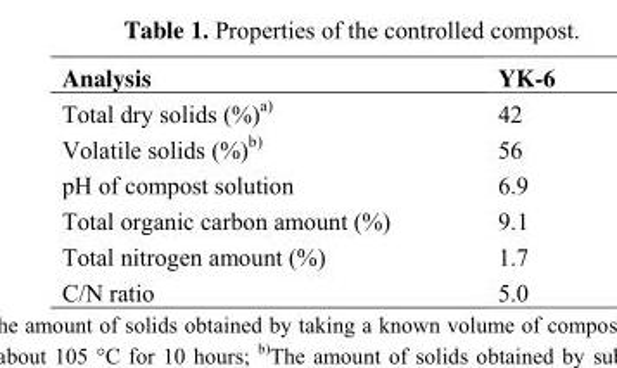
<table><thead><tr><td>Analysis</td><td>YK-6</td></tr></thead><tbody><tr><td>Total dry solids (%)a)</td><td>42</td></tr><tr><td>Volatile solids (%)b)</td><td>56</td></tr><tr><td>pH of compost solution</td><td>6.9</td></tr><tr><td>Total organic carbon amount (%)</td><td>9.1</td></tr><tr><td>Total nitrogen amount (%)</td><td>1.7</td></tr><tr><td>C/N ratio</td><td>5.0</td></tr></tbody></table>